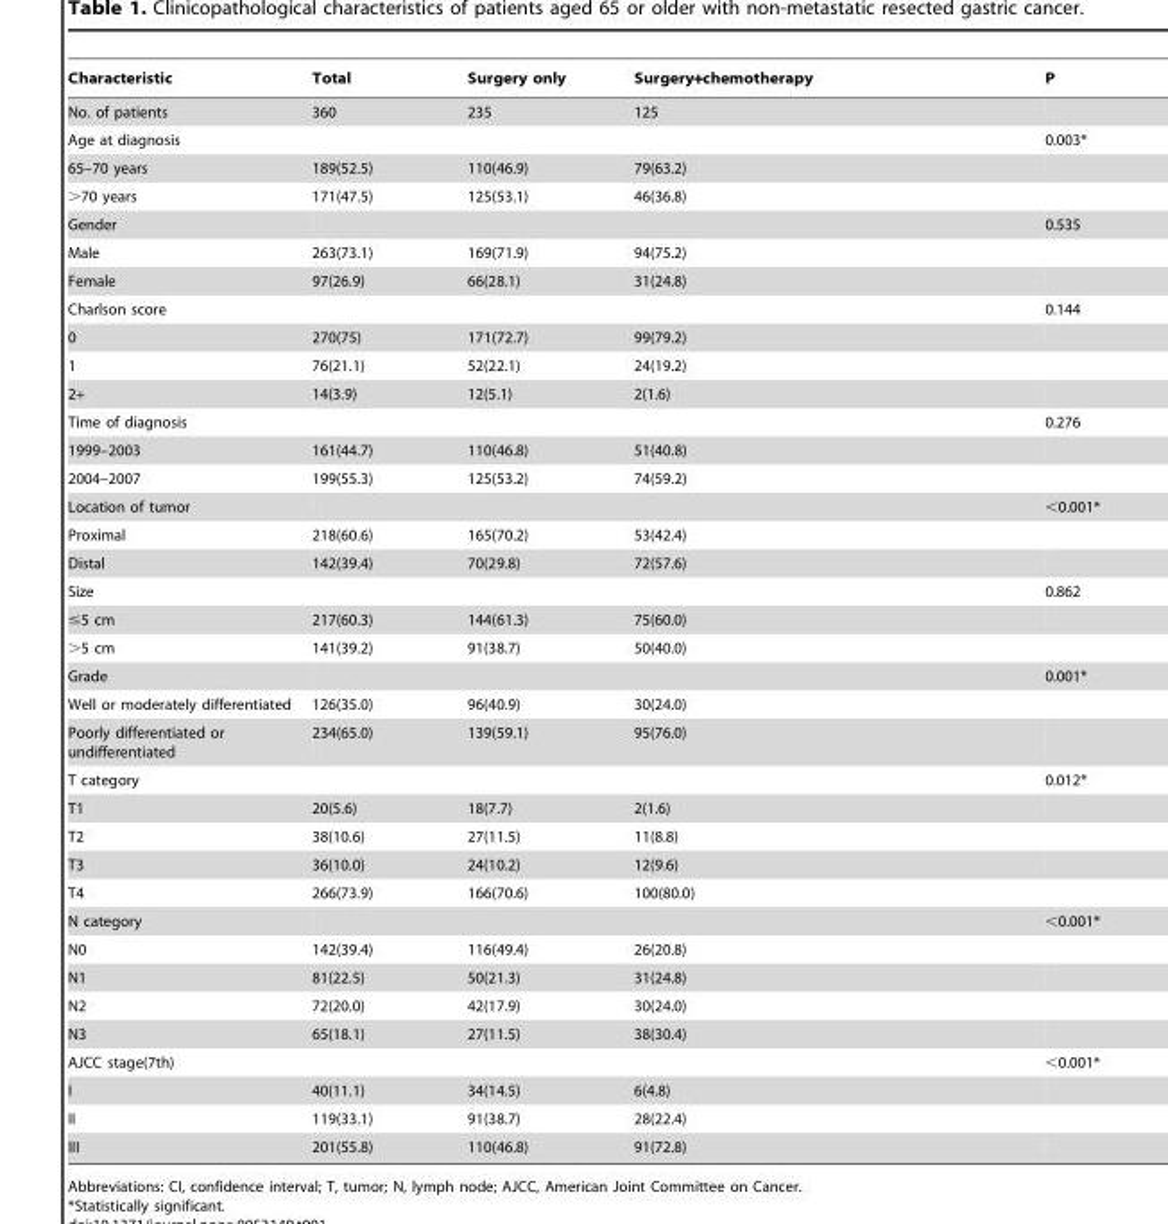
<table><thead><tr><td>Characteristic</td><td>Total</td><td>Surgery only</td><td>Surgery+chemotherapy</td><td>P</td></tr></thead><tbody><tr><td>No. of patients</td><td>360</td><td>235</td><td>125</td><td></td></tr><tr><td>Age at diagnosis</td><td></td><td></td><td></td><td>0.003*</td></tr><tr><td>65–70 years</td><td>189(52.5)</td><td>110(46.9)</td><td>79(63.2)</td><td></td></tr><tr><td>&gt;70 years</td><td>171(47.5)</td><td>125(53.1)</td><td>46(36.8)</td><td></td></tr><tr><td>Gender</td><td></td><td></td><td></td><td>0.535</td></tr><tr><td>Male</td><td>263(73.1)</td><td>169(71.9)</td><td>94(75.2)</td><td></td></tr><tr><td>Female</td><td>97(26.9)</td><td>66(28.1)</td><td>31(24.8)</td><td></td></tr><tr><td>Charlson score</td><td></td><td></td><td></td><td>0.144</td></tr><tr><td>0</td><td>270(75)</td><td>171(72.7)</td><td>99(79.2)</td><td></td></tr><tr><td>1</td><td>76(21.1)</td><td>52(22.1)</td><td>24(19.2)</td><td></td></tr><tr><td>2+</td><td>14(3.9)</td><td>12(5.1)</td><td>2(1.6)</td><td></td></tr><tr><td>Time of diagnosis</td><td></td><td></td><td></td><td>0.276</td></tr><tr><td>1999–2003</td><td>161(44.7)</td><td>110(46.8)</td><td>51(40.8)</td><td></td></tr><tr><td>2004–2007</td><td>199(55.3)</td><td>125(53.2)</td><td>74(59.2)</td><td></td></tr><tr><td>Location of tumor</td><td></td><td></td><td></td><td>&lt;0.001*</td></tr><tr><td>Proximal</td><td>218(60.6)</td><td>165(70.2)</td><td>53(42.4)</td><td></td></tr><tr><td>Distal</td><td>142(39.4)</td><td>70(29.8)</td><td>72(57.6)</td><td></td></tr><tr><td>Size</td><td></td><td></td><td></td><td>0.862</td></tr><tr><td>≤5 cm</td><td>217(60.3)</td><td>144(61.3)</td><td>75(60.0)</td><td></td></tr><tr><td>&gt;5 cm</td><td>141(39.2)</td><td>91(38.7)</td><td>50(40.0)</td><td></td></tr><tr><td>Grade</td><td></td><td></td><td></td><td>0.001*</td></tr><tr><td>Well or moderately differentiated</td><td>126(35.0)</td><td>96(40.9)</td><td>30(24.0)</td><td></td></tr><tr><td>Poorly differentiated or undifferentiated</td><td>234(65.0)</td><td>139(59.1)</td><td>95(76.0)</td><td></td></tr><tr><td>T category</td><td></td><td></td><td></td><td>0.012*</td></tr><tr><td>T1</td><td>20(5.6)</td><td>18(7.7)</td><td>2(1.6)</td><td></td></tr><tr><td>T2</td><td>38(10.6)</td><td>27(11.5)</td><td>11(8.8)</td><td></td></tr><tr><td>T3</td><td>36(10.0)</td><td>24(10.2)</td><td>12(9.6)</td><td></td></tr><tr><td>T4</td><td>266(73.9)</td><td>166(70.6)</td><td>100(80.0)</td><td></td></tr><tr><td>N category</td><td></td><td></td><td></td><td>&lt;0.001*</td></tr><tr><td>N0</td><td>142(39.4)</td><td>116(49.4)</td><td>26(20.8)</td><td></td></tr><tr><td>N1</td><td>81(22.5)</td><td>50(21.3)</td><td>31(24.8)</td><td></td></tr><tr><td>N2</td><td>72(20.0)</td><td>42(17.9)</td><td>30(24.0)</td><td></td></tr><tr><td>N3</td><td>65(18.1)</td><td>27(11.5)</td><td>38(30.4)</td><td></td></tr><tr><td>AJCC stage(7th)</td><td></td><td></td><td></td><td>&lt;0.001*</td></tr><tr><td>I</td><td>40(11.1)</td><td>34(14.5)</td><td>6(4.8)</td><td></td></tr><tr><td>II</td><td>119(33.1)</td><td>91(38.7)</td><td>28(22.4)</td><td></td></tr><tr><td>III</td><td>201(55.8)</td><td>110(46.8)</td><td>91(72.8)</td><td></td></tr></tbody></table>